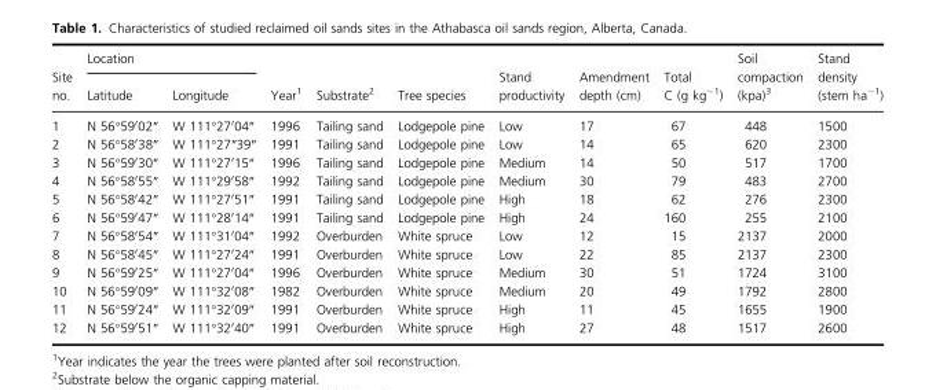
<table><thead><tr><td rowspan="2">Site no.</td><td colspan="2">Location</td><td rowspan="2">Year1</td><td rowspan="2">Substrate2</td><td rowspan="2">Tree species</td><td rowspan="2">Stand productivity</td><td rowspan="2">Amendment depth (cm)</td><td rowspan="2">Total C (g kg<sup>−1</sup>)</td><td rowspan="2">Soil compaction (kpa)3</td><td rowspan="2">Stand density (stem ha<sup>−1</sup>)</td></tr><tr><td>Latitude</td><td>Longitude</td></tr></thead><tbody><tr><td>1</td><td>N 56°59′02″</td><td>W 111°27′04″</td><td>1996</td><td>Tailing sand</td><td>Lodgepole pine</td><td>Low</td><td>17</td><td>67</td><td>448</td><td>1500</td></tr><tr><td>2</td><td>N 56°58′38″</td><td>W 111°27″39″</td><td>1991</td><td>Tailing sand</td><td>Lodgepole pine</td><td>Low</td><td>14</td><td>65</td><td>620</td><td>2300</td></tr><tr><td>3</td><td>N 56°59′30″</td><td>W 111°27′15″</td><td>1996</td><td>Tailing sand</td><td>Lodgepole pine</td><td>Medium</td><td>14</td><td>50</td><td>517</td><td>1700</td></tr><tr><td>4</td><td>N 56°58′55″</td><td>W 111°29′58″</td><td>1992</td><td>Tailing sand</td><td>Lodgepole pine</td><td>Medium</td><td>30</td><td>79</td><td>483</td><td>2700</td></tr><tr><td>5</td><td>N 56°58′42″</td><td>W 111°27′51″</td><td>1991</td><td>Tailing sand</td><td>Lodgepole pine</td><td>High</td><td>18</td><td>62</td><td>276</td><td>2300</td></tr><tr><td>6</td><td>N 56°59′47″</td><td>W 111°28′14″</td><td>1991</td><td>Tailing sand</td><td>Lodgepole pine</td><td>High</td><td>24</td><td>160</td><td>255</td><td>2100</td></tr><tr><td>7</td><td>N 56°58′54″</td><td>W 111°31′04″</td><td>1992</td><td>Overburden</td><td>White spruce</td><td>Low</td><td>12</td><td>15</td><td>2137</td><td>2000</td></tr><tr><td>8</td><td>N 56°58′45″</td><td>W 111°27′24″</td><td>1991</td><td>Overburden</td><td>White spruce</td><td>Low</td><td>22</td><td>85</td><td>2137</td><td>2300</td></tr><tr><td>9</td><td>N 56°59′25″</td><td>W 111°27′04″</td><td>1996</td><td>Overburden</td><td>White spruce</td><td>Medium</td><td>30</td><td>51</td><td>1724</td><td>3100</td></tr><tr><td>10</td><td>N 56°59′09″</td><td>W 111°32′08″</td><td>1982</td><td>Overburden</td><td>White spruce</td><td>Medium</td><td>20</td><td>49</td><td>1792</td><td>2800</td></tr><tr><td>11</td><td>N 56°59′24″</td><td>W 111°32′09″</td><td>1991</td><td>Overburden</td><td>White spruce</td><td>High</td><td>11</td><td>45</td><td>1655</td><td>1900</td></tr><tr><td>12</td><td>N 56°59′51″</td><td>W 111°32′40″</td><td>1991</td><td>Overburden</td><td>White spruce</td><td>High</td><td>27</td><td>48</td><td>1517</td><td>2600</td></tr></tbody></table>